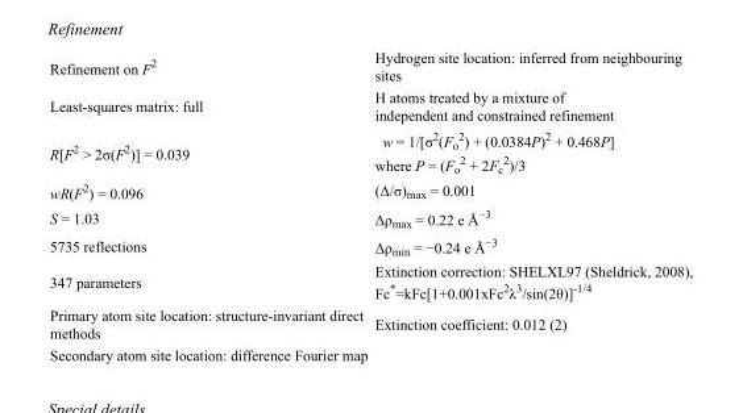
<table><tbody><tr><td>Refinement on F<sup>2</sup></td><td>Hydrogen site location: inferred from neighbouring sites</td></tr><tr><td>Least-squares matrix: full</td><td>H atoms treated by a mixture of independent and constrained refinement</td></tr><tr><td>R[F<sup>2</sup> &gt; 2σ(F<sup>2</sup>)] = 0.039</td><td>w = 1/[σ<sup>2</sup>(F<sub>o</sub> <sup>2</sup>) + (0.0384P)<sup>2</sup> + 0.468P] where P = (F<sub>o</sub> <sup>2</sup> + 2F<sub>c</sub> <sup>2</sup>)/3</td></tr><tr><td>wR(F<sup>2</sup>) = 0.096</td><td>(Δ/σ)<sub>max</sub> = 0.001</td></tr><tr><td>S = 1.03</td><td>Δρ<sub>max</sub> = 0.22 e Å<sup>−3</sup></td></tr><tr><td>5735 reflections</td><td>Δρ<sub>min</sub> = −0.24 e Å<sup>−3</sup></td></tr><tr><td>347 parameters</td><td>Extinction correction: SHELXL97 (Sheldrick, 2008), Fc*=kFc[1+0.001xFc<sup>2</sup>λ<sup>3</sup>/sin(2θ)]<sup>-1/4</sup></td></tr><tr><td>Primary atom site location: structure-invariant direct methods</td><td>Extinction coefficient: 0.012 (2)</td></tr><tr><td>Secondary atom site location: difference Fourier map</td><td></td></tr></tbody></table>